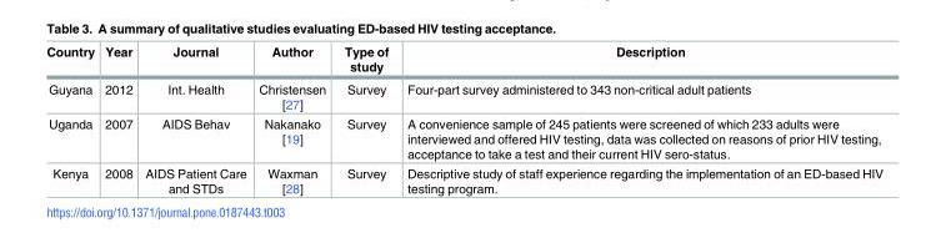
<table><thead><tr><td>Country</td><td>Year</td><td>Journal</td><td>Author</td><td>Type of study</td><td>Description</td></tr></thead><tbody><tr><td>Guyana</td><td>2012</td><td>Int. Health</td><td>Christensen [27]</td><td>Survey</td><td>Four-part survey administered to 343 non-critical adult patients</td></tr><tr><td>Uganda</td><td>2007</td><td>AIDS Behav</td><td>Nakanako [19]</td><td>Survey</td><td>A convenience sample of 245 patients were screened of which 233 adults were interviewed and offered HIV testing, data was collected on reasons of prior HIV testing, acceptance to take a test and their current HIV sero-status.</td></tr><tr><td>Kenya</td><td>2008</td><td>AIDS Patient Care and STDs</td><td>Waxman [28]</td><td>Survey</td><td>Descriptive study of staff experience regarding the implementation of an ED-based HIV testing program.</td></tr></tbody></table>